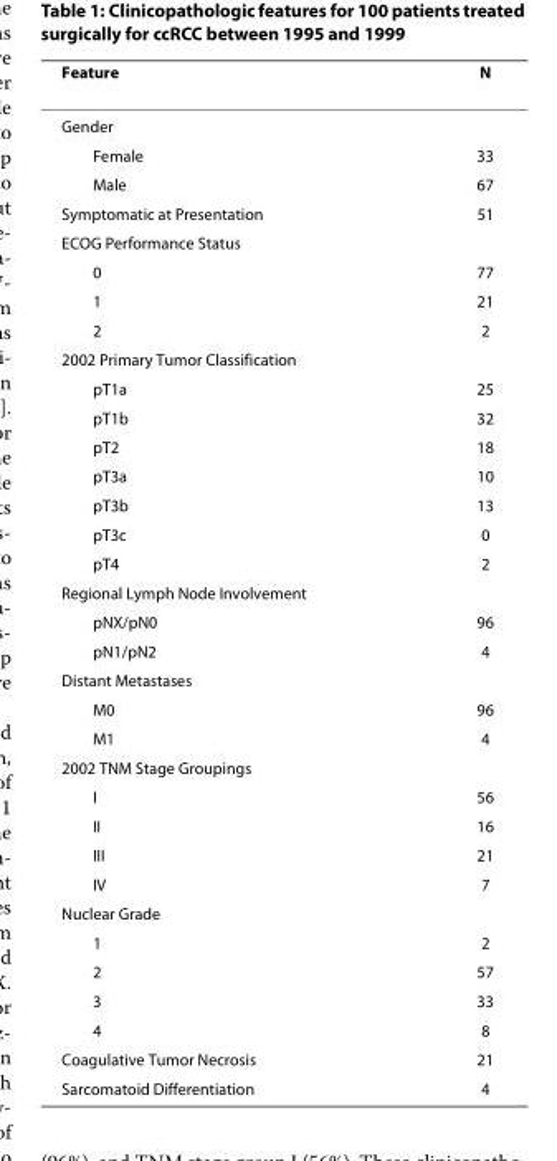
<table><thead><tr><td>Feature</td><td>N</td></tr></thead><tbody><tr><td colspan="2">Gender</td></tr><tr><td>Female</td><td>33</td></tr><tr><td>Male</td><td>67</td></tr><tr><td>Symptomatic at Presentation</td><td>51</td></tr><tr><td colspan="2">ECOG Performance Status</td></tr><tr><td>0</td><td>77</td></tr><tr><td>1</td><td>21</td></tr><tr><td>2</td><td>2</td></tr><tr><td colspan="2">2002 Primary Tumor Classification</td></tr><tr><td>pT1a</td><td>25</td></tr><tr><td>pT1b</td><td>32</td></tr><tr><td>pT2</td><td>18</td></tr><tr><td>pT3a</td><td>10</td></tr><tr><td>pT3b</td><td>13</td></tr><tr><td>pT3c</td><td>0</td></tr><tr><td>pT4</td><td>2</td></tr><tr><td colspan="2">Regional Lymph Node Involvement</td></tr><tr><td>pNX/pN0</td><td>96</td></tr><tr><td>pN1/pN2</td><td>4</td></tr><tr><td colspan="2">Distant Metastases</td></tr><tr><td>M0</td><td>96</td></tr><tr><td>M1</td><td>4</td></tr><tr><td colspan="2">2002 TNM Stage Groupings</td></tr><tr><td>I</td><td>56</td></tr><tr><td>II</td><td>16</td></tr><tr><td>III</td><td>21</td></tr><tr><td>IV</td><td>7</td></tr><tr><td colspan="2">Nuclear Grade</td></tr><tr><td>1</td><td>2</td></tr><tr><td>2</td><td>57</td></tr><tr><td>3</td><td>33</td></tr><tr><td>4</td><td>8</td></tr><tr><td>Coagulative Tumor Necrosis</td><td>21</td></tr><tr><td>Sarcomatoid Differentiation</td><td>4</td></tr></tbody></table>